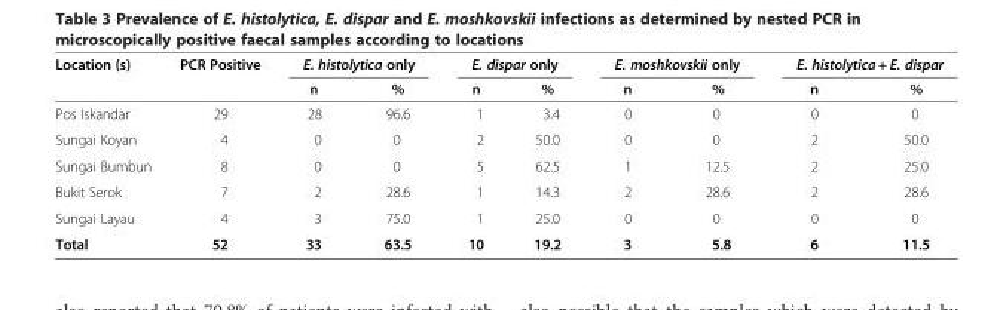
<table><thead><tr><td rowspan="2">Location (s)</td><td rowspan="2">PCR Positive</td><td colspan="2">E. histolytica only</td><td colspan="2">E. dispar only</td><td colspan="2">E. moshkovskii only</td><td colspan="2">E. histolytica + E. dispar</td></tr><tr><td>n</td><td>%</td><td>n</td><td>%</td><td>n</td><td>%</td><td>n</td><td>%</td></tr></thead><tbody><tr><td>Pos Iskandar</td><td>29</td><td>28</td><td>96.6</td><td>1</td><td>3.4</td><td>0</td><td>0</td><td>0</td><td>0</td></tr><tr><td>Sungai Koyan</td><td>4</td><td>0</td><td>0</td><td>2</td><td>50.0</td><td>0</td><td>0</td><td>2</td><td>50.0</td></tr><tr><td>Sungai Bumbun</td><td>8</td><td>0</td><td>0</td><td>5</td><td>62.5</td><td>1</td><td>12.5</td><td>2</td><td>25.0</td></tr><tr><td>Bukit Serok</td><td>7</td><td>2</td><td>28.6</td><td>1</td><td>14.3</td><td>2</td><td>28.6</td><td>2</td><td>28.6</td></tr><tr><td>Sungai Layau</td><td>4</td><td>3</td><td>75.0</td><td>1</td><td>25.0</td><td>0</td><td>0</td><td>0</td><td>0</td></tr><tr><td>Total</td><td>52</td><td>33</td><td>63.5</td><td>10</td><td>19.2</td><td>3</td><td>5.8</td><td>6</td><td>11.5</td></tr></tbody></table>